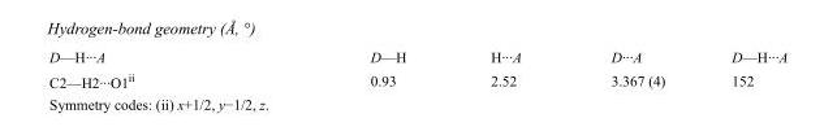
<table><tbody><tr><td>D—H···A</td><td>D—H</td><td>H···A</td><td>D···A</td><td>D—H···A</td></tr><tr><td>C2—H2···O1<sup>ii</sup></td><td>0.93</td><td>2.52</td><td>3.367 (4)</td><td>152</td></tr></tbody></table>